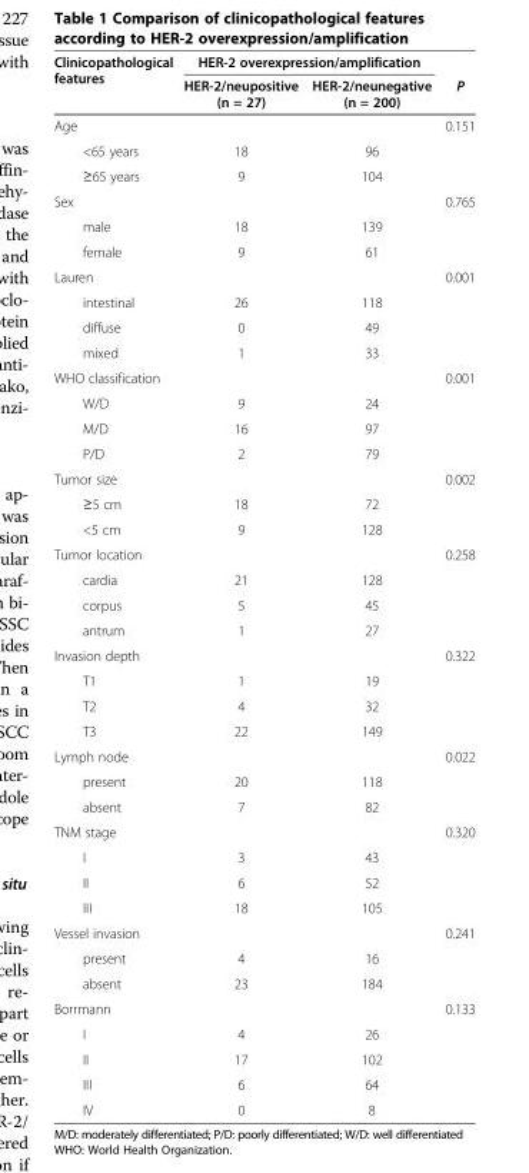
<table><thead><tr><td rowspan="2">Clinicopathological features</td><td colspan="2">HER-2 overexpression/amplification</td><td rowspan="2">P</td></tr><tr><td>HER-2/neupositive (n = 27)</td><td>HER-2/neunegative (n = 200)</td></tr></thead><tbody><tr><td colspan="3">Age</td><td rowspan="3">0.151</td></tr><tr><td>&lt;65 years</td><td>18</td><td>96</td></tr><tr><td>≥65 years</td><td>9</td><td>104</td></tr><tr><td colspan="3">Sex</td><td rowspan="3">0.765</td></tr><tr><td>male</td><td>18</td><td>139</td></tr><tr><td>female</td><td>9</td><td>61</td></tr><tr><td colspan="3">Lauren</td><td rowspan="4">0.001</td></tr><tr><td>intestinal</td><td>26</td><td>118</td></tr><tr><td>diffuse</td><td>0</td><td>49</td></tr><tr><td>mixed</td><td>1</td><td>33</td></tr><tr><td colspan="3">WHO classification</td><td rowspan="4">0.001</td></tr><tr><td>W/D</td><td>9</td><td>24</td></tr><tr><td>M/D</td><td>16</td><td>97</td></tr><tr><td>P/D</td><td>2</td><td>79</td></tr><tr><td colspan="3">Tumor size</td><td rowspan="3">0.002</td></tr><tr><td>≥5 cm</td><td>18</td><td>72</td></tr><tr><td>&lt;5 cm</td><td>9</td><td>128</td></tr><tr><td colspan="3">Tumor location</td><td rowspan="4">0.258</td></tr><tr><td>cardia</td><td>21</td><td>128</td></tr><tr><td>corpus</td><td>5</td><td>45</td></tr><tr><td>antrum</td><td>1</td><td>27</td></tr><tr><td colspan="3">Invasion depth</td><td rowspan="4">0.322</td></tr><tr><td>T1</td><td>1</td><td>19</td></tr><tr><td>T2</td><td>4</td><td>32</td></tr><tr><td>T3</td><td>22</td><td>149</td></tr><tr><td colspan="3">Lymph node</td><td rowspan="3">0.022</td></tr><tr><td>present</td><td>20</td><td>118</td></tr><tr><td>absent</td><td>7</td><td>82</td></tr><tr><td colspan="3">TNM stage</td><td rowspan="4">0.320</td></tr><tr><td>I</td><td>3</td><td>43</td></tr><tr><td>II</td><td>6</td><td>52</td></tr><tr><td>III</td><td>18</td><td>105</td></tr><tr><td colspan="3">Vessel invasion</td><td rowspan="3">0.241</td></tr><tr><td>present</td><td>4</td><td>16</td></tr><tr><td>absent</td><td>23</td><td>184</td></tr><tr><td colspan="3">Borrmann</td><td rowspan="5">0.133</td></tr><tr><td>I</td><td>4</td><td>26</td></tr><tr><td>II</td><td>17</td><td>102</td></tr><tr><td>III</td><td>6</td><td>64</td></tr><tr><td>IV</td><td>0</td><td>8</td></tr></tbody></table>